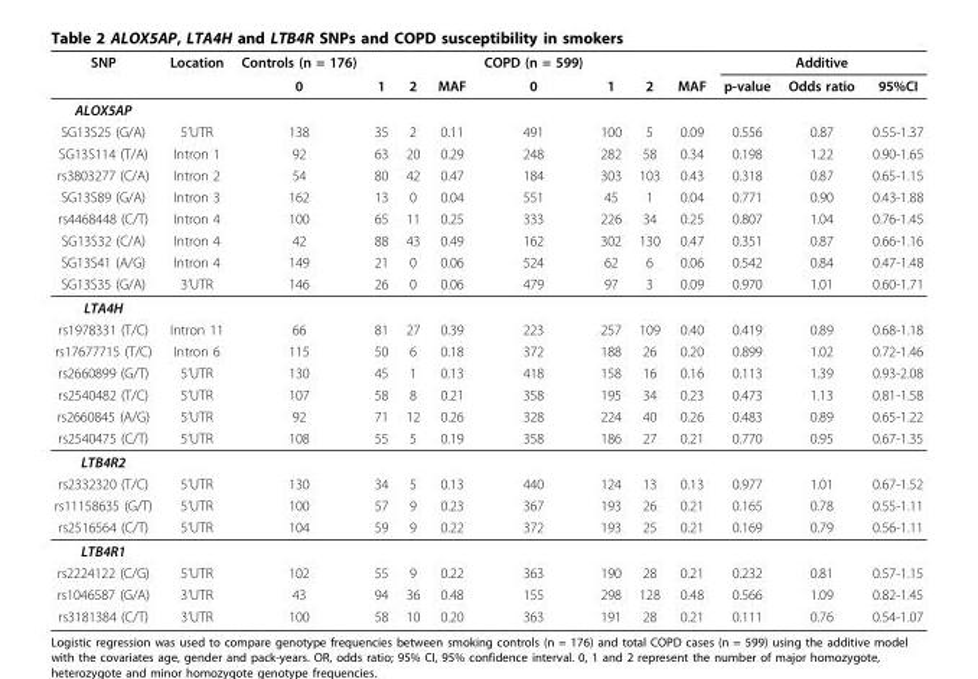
<table><thead><tr><td rowspan="2">SNP</td><td rowspan="2">Location</td><td rowspan="2">Controls (n = 176) 0</td><td rowspan="2">1</td><td rowspan="2">2</td><td rowspan="2">MAF</td><td rowspan="2">COPD (n = 599) 0</td><td rowspan="2">1</td><td rowspan="2">2</td><td rowspan="2">MAF</td><td rowspan="2">p-value</td><td rowspan="2">Additive Odds ratio</td><td rowspan="2">95%CI</td></tr><tr></tr></thead><tbody><tr><td colspan="13">ALOX5AP</td></tr><tr><td>SG13S25 (G/A)</td><td>5’UTR</td><td>138</td><td>35</td><td>2</td><td>0.11</td><td>491</td><td>100</td><td>5</td><td>0.09</td><td>0.556</td><td>0.87</td><td>0.55-1.37</td></tr><tr><td>SG13S114 (T/A)</td><td>Intron 1</td><td>92</td><td>63</td><td>20</td><td>0.29</td><td>248</td><td>282</td><td>58</td><td>0.34</td><td>0.198</td><td>1.22</td><td>0.90-1.65</td></tr><tr><td>rs3803277 (C/A)</td><td>Intron 2</td><td>54</td><td>80</td><td>42</td><td>0.47</td><td>184</td><td>303</td><td>103</td><td>0.43</td><td>0.318</td><td>0.87</td><td>0.65-1.15</td></tr><tr><td>SG13S89 (G/A)</td><td>Intron 3</td><td>162</td><td>13</td><td>0</td><td>0.04</td><td>551</td><td>45</td><td>1</td><td>0.04</td><td>0.771</td><td>0.90</td><td>0.43-1.88</td></tr><tr><td>rs4468448 (C/T)</td><td>Intron 4</td><td>100</td><td>65</td><td>11</td><td>0.25</td><td>333</td><td>226</td><td>34</td><td>0.25</td><td>0.807</td><td>1.04</td><td>0.76-1.45</td></tr><tr><td>SG13S32 (C/A)</td><td>Intron 4</td><td>42</td><td>88</td><td>43</td><td>0.49</td><td>162</td><td>302</td><td>130</td><td>0.47</td><td>0.351</td><td>0.87</td><td>0.66-1.16</td></tr><tr><td>SG13S41 (A/G)</td><td>Intron 4</td><td>149</td><td>21</td><td>0</td><td>0.06</td><td>524</td><td>62</td><td>6</td><td>0.06</td><td>0.542</td><td>0.84</td><td>0.47-1.48</td></tr><tr><td>SG13S35 (G/A)</td><td>3’UTR</td><td>146</td><td>26</td><td>0</td><td>0.06</td><td>479</td><td>97</td><td>3</td><td>0.09</td><td>0.970</td><td>1.01</td><td>0.60-1.71</td></tr><tr><td colspan="13">LTA4H</td></tr><tr><td>rs1978331 (T/C)</td><td>Intron 11</td><td>66</td><td>81</td><td>27</td><td>0.39</td><td>223</td><td>257</td><td>109</td><td>0.40</td><td>0.419</td><td>0.89</td><td>0.68-1.18</td></tr><tr><td>rs17677715 (T/C)</td><td>Intron 6</td><td>115</td><td>50</td><td>6</td><td>0.18</td><td>372</td><td>188</td><td>26</td><td>0.20</td><td>0.899</td><td>1.02</td><td>0.72-1.46</td></tr><tr><td>rs2660899 (G/T)</td><td>5’UTR</td><td>130</td><td>45</td><td>1</td><td>0.13</td><td>418</td><td>158</td><td>16</td><td>0.16</td><td>0.113</td><td>1.39</td><td>0.93-2.08</td></tr><tr><td>rs2540482 (T/C)</td><td>5’UTR</td><td>107</td><td>58</td><td>8</td><td>0.21</td><td>358</td><td>195</td><td>34</td><td>0.23</td><td>0.473</td><td>1.13</td><td>0.81-1.58</td></tr><tr><td>rs2660845 (A/G)</td><td>5’UTR</td><td>92</td><td>71</td><td>12</td><td>0.26</td><td>328</td><td>224</td><td>40</td><td>0.26</td><td>0.483</td><td>0.89</td><td>0.65-1.22</td></tr><tr><td>rs2540475 (C/T)</td><td>5’UTR</td><td>108</td><td>55</td><td>5</td><td>0.19</td><td>358</td><td>186</td><td>27</td><td>0.21</td><td>0.770</td><td>0.95</td><td>0.67-1.35</td></tr><tr><td colspan="13">LTB4R2</td></tr><tr><td>rs2332320 (T/C)</td><td>5’UTR</td><td>130</td><td>34</td><td>5</td><td>0.13</td><td>440</td><td>124</td><td>13</td><td>0.13</td><td>0.977</td><td>1.01</td><td>0.67-1.52</td></tr><tr><td>rs11158635 (G/T)</td><td>5’UTR</td><td>100</td><td>57</td><td>9</td><td>0.23</td><td>367</td><td>193</td><td>26</td><td>0.21</td><td>0.165</td><td>0.78</td><td>0.55-1.11</td></tr><tr><td>rs2516564 (C/T)</td><td>5’UTR</td><td>104</td><td>59</td><td>9</td><td>0.22</td><td>372</td><td>193</td><td>25</td><td>0.21</td><td>0.169</td><td>0.79</td><td>0.56-1.11</td></tr><tr><td colspan="13">LTB4R1</td></tr><tr><td>rs2224122 (C/G)</td><td>5’UTR</td><td>102</td><td>55</td><td>9</td><td>0.22</td><td>363</td><td>190</td><td>28</td><td>0.21</td><td>0.232</td><td>0.81</td><td>0.57-1.15</td></tr><tr><td>rs1046587 (G/A)</td><td>3’UTR</td><td>43</td><td>94</td><td>36</td><td>0.48</td><td>155</td><td>298</td><td>128</td><td>0.48</td><td>0.566</td><td>1.09</td><td>0.82-1.45</td></tr><tr><td>rs3181384 (C/T)</td><td>3’UTR</td><td>100</td><td>58</td><td>10</td><td>0.20</td><td>363</td><td>191</td><td>28</td><td>0.21</td><td>0.111</td><td>0.76</td><td>0.54-1.07</td></tr></tbody></table>